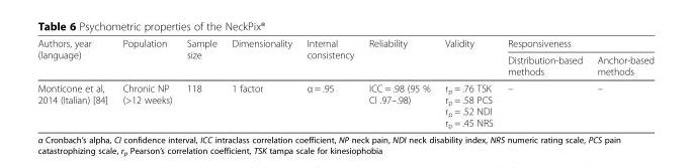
<table><thead><tr><td rowspan="2">Authors, year (language)</td><td rowspan="2">Population</td><td rowspan="2">Sample size</td><td rowspan="2">Dimensionality</td><td rowspan="2">Internal consistency</td><td rowspan="2">Reliability</td><td rowspan="2">Validity</td><td colspan="2">Responsiveness</td></tr><tr><td>Distribution-based methods</td><td>Anchor-based methods</td></tr></thead><tbody><tr><td>Monticone et al, 2014 (Italian) [84]</td><td>Chronic NP (&gt;12 weeks)</td><td>118</td><td>1 factor</td><td>α = .95</td><td>ICC = .98 (95 % CI .97–.98)</td><td>r<sub>p</sub> = .76 TSK r<sub>p</sub> = .58 PCS r<sub>p</sub> = .52 NDI r<sub>p</sub> = .45 NRS</td><td>–</td><td>–</td></tr></tbody></table>